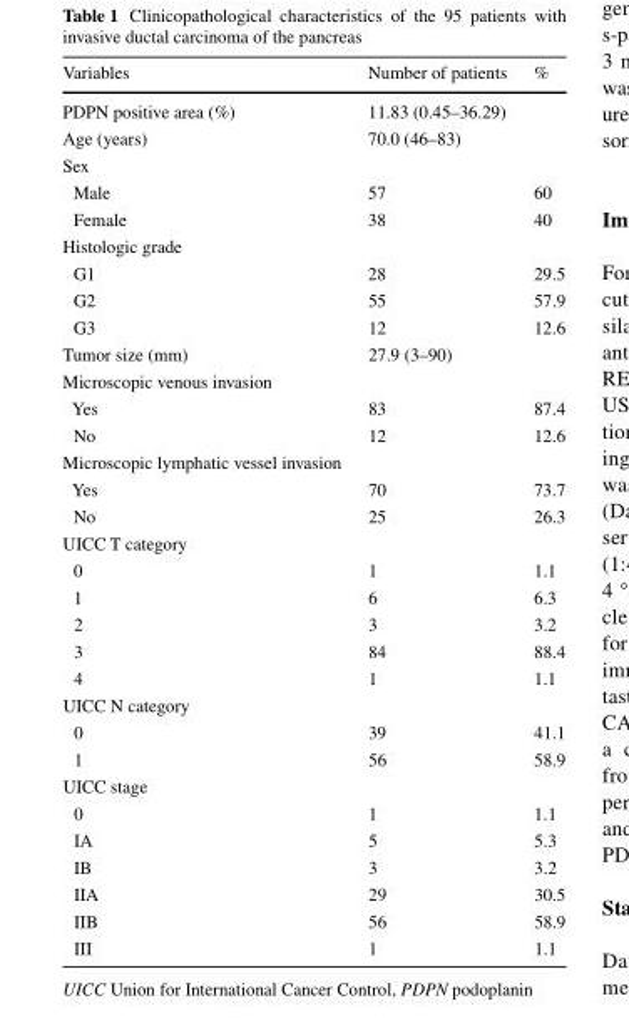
<table><thead><tr><td>Variables</td><td>Number of patients</td><td>%</td></tr></thead><tbody><tr><td>PDPN positive area (%)</td><td colspan="2">11.83 (0.45–36.29)</td></tr><tr><td>Age (years)</td><td colspan="2">70.0 (46–83)</td></tr><tr><td colspan="3">Sex</td></tr><tr><td>Male</td><td>57</td><td>60</td></tr><tr><td>Female</td><td>38</td><td>40</td></tr><tr><td colspan="3">Histologic grade</td></tr><tr><td>G1</td><td>28</td><td>29.5</td></tr><tr><td>G2</td><td>55</td><td>57.9</td></tr><tr><td>G3</td><td>12</td><td>12.6</td></tr><tr><td>Tumor size (mm)</td><td colspan="2">27.9 (3–90)</td></tr><tr><td colspan="3">Microscopic venous invasion</td></tr><tr><td>Yes</td><td>83</td><td>87.4</td></tr><tr><td>No</td><td>12</td><td>12.6</td></tr><tr><td colspan="3">Microscopic lymphatic vessel invasion</td></tr><tr><td>Yes</td><td>70</td><td>73.7</td></tr><tr><td>No</td><td>25</td><td>26.3</td></tr><tr><td colspan="3">UICC T category</td></tr><tr><td>0</td><td>1</td><td>1.1</td></tr><tr><td>1</td><td>6</td><td>6.3</td></tr><tr><td>2</td><td>3</td><td>3.2</td></tr><tr><td>3</td><td>84</td><td>88.4</td></tr><tr><td>4</td><td>1</td><td>1.1</td></tr><tr><td colspan="3">UICC N category</td></tr><tr><td>0</td><td>39</td><td>41.1</td></tr><tr><td>1</td><td>56</td><td>58.9</td></tr><tr><td colspan="3">UICC stage</td></tr><tr><td>0</td><td>1</td><td>1.1</td></tr><tr><td>IA</td><td>5</td><td>5.3</td></tr><tr><td>IB</td><td>3</td><td>3.2</td></tr><tr><td>IIA</td><td>29</td><td>30.5</td></tr><tr><td>IIB</td><td>56</td><td>58.9</td></tr><tr><td>III</td><td>1</td><td>1.1</td></tr></tbody></table>